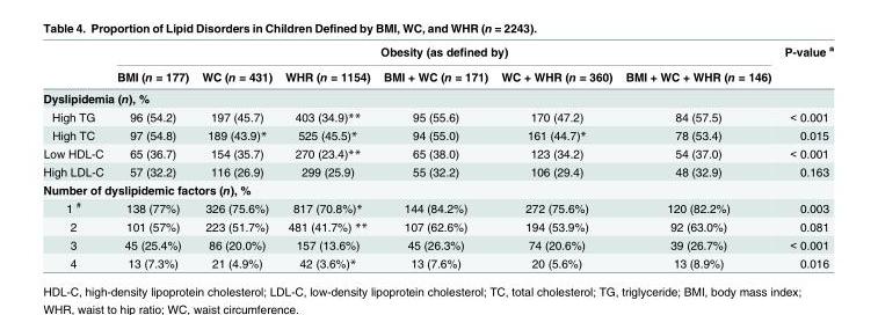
<table><thead><tr><td rowspan="2"></td><td colspan="6">Obesity (as defined by)</td><td rowspan="2">P-value <sup>a</sup></td></tr><tr><td>BMI (n = 177)</td><td>WC (n = 431)</td><td>WHR (n = 1154)</td><td>BMI + WC (n = 171)</td><td>WC + WHR (n = 360)</td><td>BMI + WC + WHR (n = 146)</td></tr></thead><tbody><tr><td colspan="8">Dyslipidemia (n), %</td></tr><tr><td>High TG</td><td>96 (54.2)</td><td>197 (45.7)</td><td>403 (34.9)**</td><td>95 (55.6)</td><td>170 (47.2)</td><td>84 (57.5)</td><td>&lt; 0.001</td></tr><tr><td>High TC</td><td>97 (54.8)</td><td>189 (43.9)*</td><td>525 (45.5)*</td><td>94 (55.0)</td><td>161 (44.7)*</td><td>78 (53.4)</td><td>0.015</td></tr><tr><td>Low HDL-C</td><td>65 (36.7)</td><td>154 (35.7)</td><td>270 (23.4)**</td><td>65 (38.0)</td><td>123 (34.2)</td><td>54 (37.0)</td><td>&lt; 0.001</td></tr><tr><td>High LDL-C</td><td>57 (32.2)</td><td>116 (26.9)</td><td>299 (25.9)</td><td>55 (32.2)</td><td>106 (29.4)</td><td>48 (32.9)</td><td>0.163</td></tr><tr><td colspan="8">Number of dyslipidemic factors (n), %</td></tr><tr><td>1 <sup>#</sup></td><td>138 (77%)</td><td>326 (75.6%)</td><td>817 (70.8%)*</td><td>144 (84.2%)</td><td>272 (75.6%)</td><td>120 (82.2%)</td><td>0.003</td></tr><tr><td>2</td><td>101 (57%)</td><td>223 (51.7%)</td><td>481 (41.7%) **</td><td>107 (62.6%)</td><td>194 (53.9%)</td><td>92 (63.0%)</td><td>0.081</td></tr><tr><td>3</td><td>45 (25.4%)</td><td>86 (20.0%)</td><td>157 (13.6%)</td><td>45 (26.3%)</td><td>74 (20.6%)</td><td>39 (26.7%)</td><td>&lt; 0.001</td></tr><tr><td>4</td><td>13 (7.3%)</td><td>21 (4.9%)</td><td>42 (3.6%)*</td><td>13 (7.6%)</td><td>20 (5.6%)</td><td>13 (8.9%)</td><td>0.016</td></tr></tbody></table>